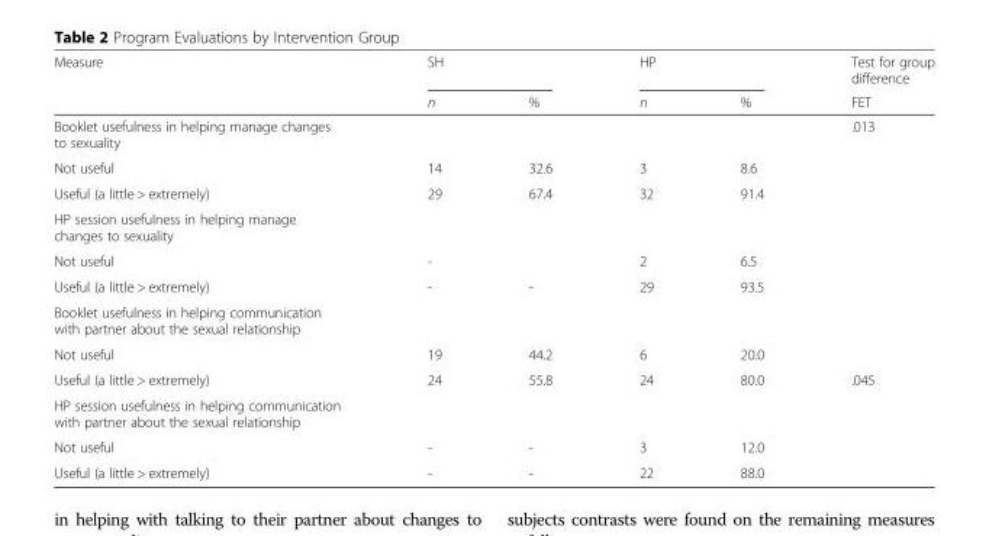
<table><thead><tr><td rowspan="2">Measure</td><td colspan="2">SH</td><td colspan="2">HP</td><td rowspan="2">Test for group difference FET</td></tr><tr><td>n</td><td>%</td><td>n</td><td>%</td></tr></thead><tbody><tr><td>Booklet usefulness in helping manage changes to sexuality</td><td></td><td></td><td></td><td></td><td>.013</td></tr><tr><td>Not useful</td><td>14</td><td>32.6</td><td>3</td><td>8.6</td><td></td></tr><tr><td>Useful (a little &gt; extremely)</td><td>29</td><td>67.4</td><td>32</td><td>91.4</td><td></td></tr><tr><td colspan="6">HP session usefulness in helping manage changes to sexuality</td></tr><tr><td>Not useful</td><td>-</td><td></td><td>2</td><td>6.5</td><td></td></tr><tr><td>Useful (a little &gt; extremely)</td><td>-</td><td>-</td><td>29</td><td>93.5</td><td></td></tr><tr><td colspan="6">Booklet usefulness in helping communication with partner about the sexual relationship</td></tr><tr><td>Not useful</td><td>19</td><td>44.2</td><td>6</td><td>20.0</td><td></td></tr><tr><td>Useful (a little &gt; extremely)</td><td>24</td><td>55.8</td><td>24</td><td>80.0</td><td>.045</td></tr><tr><td colspan="6">HP session usefulness in helping communication with partner about the sexual relationship</td></tr><tr><td>Not useful</td><td>-</td><td>-</td><td>3</td><td>12.0</td><td></td></tr><tr><td>Useful (a little &gt; extremely)</td><td>-</td><td>-</td><td>22</td><td>88.0</td><td></td></tr></tbody></table>